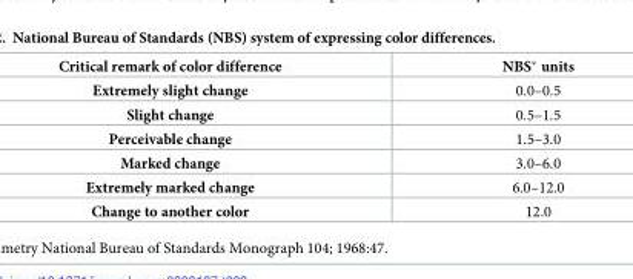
<table><thead><tr><td>Critical remark of color difference</td><td>NBS* units</td></tr></thead><tbody><tr><td>Extremely slight change</td><td>0.0–0.5</td></tr><tr><td>Slight change</td><td>0.5–1.5</td></tr><tr><td>Perceivable change</td><td>1.5–3.0</td></tr><tr><td>Marked change</td><td>3.0–6.0</td></tr><tr><td>Extremely marked change</td><td>6.0–12.0</td></tr><tr><td>Change to another color</td><td>12.0</td></tr></tbody></table>